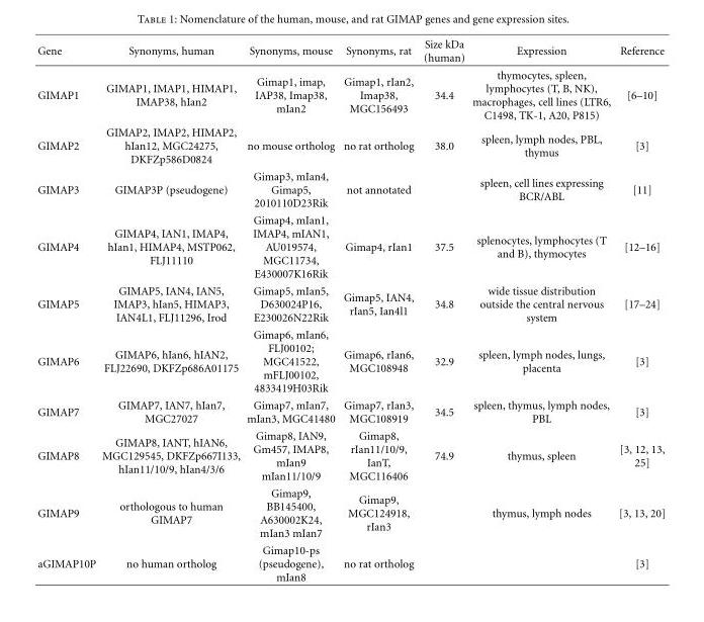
<table><thead><tr><td>Gene</td><td>Synonyms, human</td><td>Synonyms, mouse</td><td>Synonyms, rat</td><td>Size kDa (human)</td><td>Expression</td><td>Reference</td></tr></thead><tbody><tr><td>GIMAP1</td><td>GIMAP1, IMAP1, HIMAP1, IMAP38, hIan2</td><td>Gimap1, imap, IAP38, Imap38, mIan2</td><td>Gimap1, rIan2, Imap38, MGC156493</td><td>34.4</td><td>thymocytes, spleen, lymphocytes (T, B, NK), macrophages, cell lines (LTR6, C1498, TK-1, A20, P815)</td><td>[6–10]</td></tr><tr><td>GIMAP2</td><td>GIMAP2, IMAP2, HIMAP2, hIan12, MGC24275, DKFZp586D0824</td><td>no mouse ortholog</td><td>no rat ortholog</td><td>38.0</td><td>spleen, lymph nodes, PBL, thymus</td><td>[3]</td></tr><tr><td>GIMAP3</td><td>GIMAP3P (pseudogene)</td><td>Gimap3, mIan4, Gimap5, 2010110D23Rik</td><td>not annotated</td><td></td><td>spleen, cell lines expressing BCR/ABL</td><td>[11]</td></tr><tr><td>GIMAP4</td><td>GIMAP4, IAN1, IMAP4, hIan1, HIMAP4, MSTP062, FLJ11110</td><td>Gimap4, mIan1, IMAP4, mIAN1, AU019574, MGC11734, E430007K16Rik</td><td>Gimap4, rIan1</td><td>37.5</td><td>splenocytes, lymphocytes (T and B), thymocytes</td><td>[12–16]</td></tr><tr><td>GIMAP5</td><td>GIMAP5, IAN4, IAN5, IMAP3, hIan5, HIMAP3, IAN4L1, FLJ11296, Irod</td><td>Gimap5, mIan5, D630024P16, E230026N22Rik</td><td>Gimap5, IAN4, rIan5, Ian4l1</td><td>34.8</td><td>wide tissue distribution outside the central nervous system</td><td>[17–24]</td></tr><tr><td>GIMAP6</td><td>GIMAP6, hIan6, hIAN2, FLJ22690, DKFZp686A01175</td><td>Gimap6, mIan6, FLJ00102; MGC41522, mFLJ00102, 4833419H03Rik</td><td>Gimap6, rIan6, MGC108948</td><td>32.9</td><td>spleen, lymph nodes, lungs, placenta</td><td>[3]</td></tr><tr><td>GIMAP7</td><td>GIMAP7, IAN7, hIan7, MGC27027</td><td>Gimap7, mIan7, mIan3, MGC41480</td><td>Gimap7, rIan3, MGC108919</td><td>34.5</td><td>spleen, thymus, lymph nodes, PBL</td><td>[3]</td></tr><tr><td>GIMAP8</td><td>GIMAP8, IANT, hIAN6, MGC129545, DKFZp667I133, hIan11/10/9, hIan4/3/6</td><td>Gimap8, IAN9, Gm457, IMAP8, mIan9 mIan11/10/9</td><td>Gimap8, rIan11/10/9, IanT, MGC116406</td><td>74.9</td><td>thymus, spleen</td><td>[3, 12, 13, 25]</td></tr><tr><td>GIMAP9</td><td>orthologous to human GIMAP7</td><td>Gimap9, BB145400, A630002K24, mIan3 mIan7</td><td>Gimap9, MGC124918, rIan3</td><td></td><td>thymus, lymph nodes</td><td>[3, 13, 20]</td></tr><tr><td>aGIMAP10P</td><td>no human ortholog</td><td>Gimap10-ps (pseudogene), mIan8</td><td>no rat ortholog</td><td></td><td></td><td>[3]</td></tr></tbody></table>